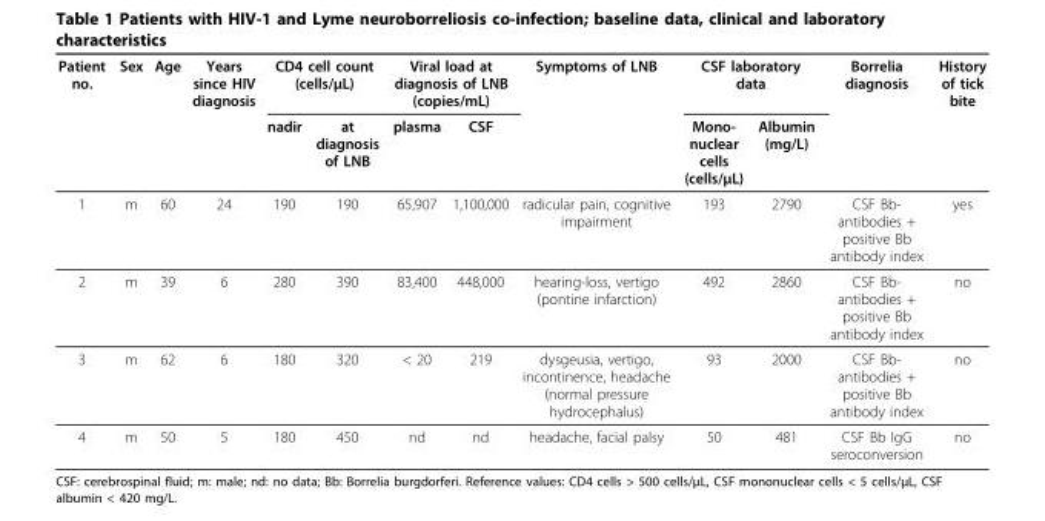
<table><thead><tr><td rowspan="2">Patient no.</td><td rowspan="2">Sex</td><td rowspan="2">Age</td><td rowspan="2">Years since HIV diagnosis</td><td colspan="2">CD4 cell count (cells/μL)</td><td colspan="2">Viral load at diagnosis of LNB (copies/mL)</td><td rowspan="2">Symptoms of LNB</td><td colspan="2">CSF laboratory data</td><td rowspan="2">Borrelia diagnosis</td><td rowspan="2">History of tick bite</td></tr><tr><td>nadir</td><td>at diagnosis of LNB</td><td>plasma</td><td>CSF</td><td>Mono- nuclear cells (cells/μL)</td><td>Albumin (mg/L)</td></tr></thead><tbody><tr><td>1</td><td>m</td><td>60</td><td>24</td><td>190</td><td>190</td><td>65,907</td><td>1,100,000</td><td>radicular pain, cognitive impairment</td><td>193</td><td>2790</td><td>CSF Bb- antibodies + positive Bb antibody index</td><td>yes</td></tr><tr><td>2</td><td>m</td><td>39</td><td>6</td><td>280</td><td>390</td><td>83,400</td><td>448,000</td><td>hearing-loss, vertigo (pontine infarction)</td><td>492</td><td>2860</td><td>CSF Bb- antibodies + positive Bb antibody index</td><td>no</td></tr><tr><td>3</td><td>m</td><td>62</td><td>6</td><td>180</td><td>320</td><td>&lt; 20</td><td>219</td><td>dysgeusia, vertigo, incontinence, headache (normal pressure hydrocephalus)</td><td>93</td><td>2000</td><td>CSF Bb- antibodies + positive Bb antibody index</td><td>no</td></tr><tr><td>4</td><td>m</td><td>50</td><td>5</td><td>180</td><td>450</td><td>nd</td><td>nd</td><td>headache, facial palsy</td><td>50</td><td>481</td><td>CSF Bb IgG seroconversion</td><td>no</td></tr></tbody></table>